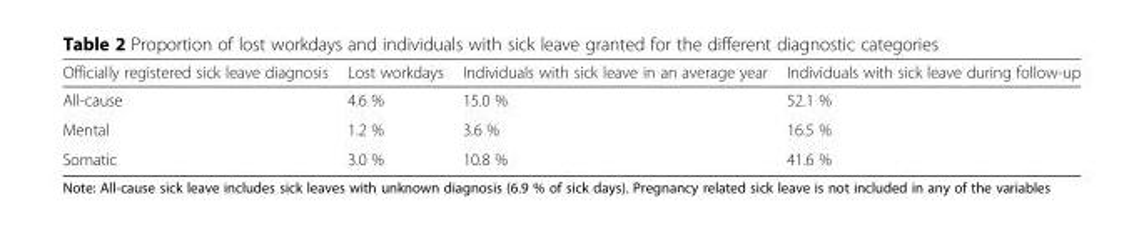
<table><thead><tr><td>Officially registered sick leave diagnosis</td><td>Lost workdays</td><td>Individuals with sick leave in an average year</td><td>Individuals with sick leave during follow-up</td></tr></thead><tbody><tr><td>All-cause</td><td>4.6 %</td><td>15.0 %</td><td>52.1 %</td></tr><tr><td>Mental</td><td>1.2 %</td><td>3.6 %</td><td>16.5 %</td></tr><tr><td>Somatic</td><td>3.0 %</td><td>10.8 %</td><td>41.6 %</td></tr></tbody></table>